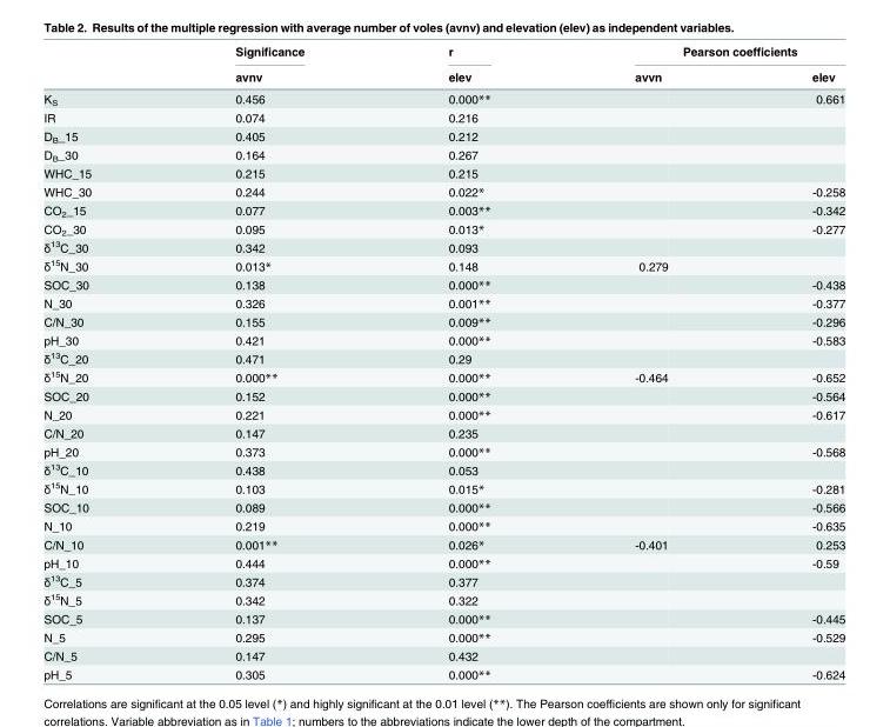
<table><thead><tr><td rowspan="2"></td><td rowspan="2">Significance avnv</td><td rowspan="2">r elev</td><td colspan="2">Pearson coefficients</td></tr><tr><td>avvn</td><td>elev</td></tr></thead><tbody><tr><td>K<sub>S</sub></td><td>0.456</td><td>0.000**</td><td></td><td>0.661</td></tr><tr><td>IR</td><td>0.074</td><td>0.216</td><td></td><td></td></tr><tr><td>DB_15</td><td>0.405</td><td>0.212</td><td></td><td></td></tr><tr><td>DB_30</td><td>0.164</td><td>0.267</td><td></td><td></td></tr><tr><td>WHC_15</td><td>0.215</td><td>0.215</td><td></td><td></td></tr><tr><td>WHC_30</td><td>0.244</td><td>0.022*</td><td></td><td>-0.258</td></tr><tr><td>CO2_15</td><td>0.077</td><td>0.003**</td><td></td><td>-0.342</td></tr><tr><td>CO2_30</td><td>0.095</td><td>0.013*</td><td></td><td>-0.277</td></tr><tr><td>δ<sup>13</sup>C_30</td><td>0.342</td><td>0.093</td><td></td><td></td></tr><tr><td>δ<sup>15</sup>N_30</td><td>0.013*</td><td>0.148</td><td>0.279</td><td></td></tr><tr><td>SOC_30</td><td>0.138</td><td>0.000**</td><td></td><td>-0.438</td></tr><tr><td>N_30</td><td>0.326</td><td>0.001**</td><td></td><td>-0.377</td></tr><tr><td>C/N_30</td><td>0.155</td><td>0.009**</td><td></td><td>-0.296</td></tr><tr><td>pH_30</td><td>0.421</td><td>0.000**</td><td></td><td>-0.583</td></tr><tr><td>δ<sup>13</sup>C_20</td><td>0.471</td><td>0.29</td><td></td><td></td></tr><tr><td>δ<sup>15</sup>N_20</td><td>0.000**</td><td>0.000**</td><td>-0.464</td><td>-0.652</td></tr><tr><td>SOC_20</td><td>0.152</td><td>0.000**</td><td></td><td>-0.564</td></tr><tr><td>N_20</td><td>0.221</td><td>0.000**</td><td></td><td>-0.617</td></tr><tr><td>C/N_20</td><td>0.147</td><td>0.235</td><td></td><td></td></tr><tr><td>pH_20</td><td>0.373</td><td>0.000**</td><td></td><td>-0.568</td></tr><tr><td>δ<sup>13</sup>C_10</td><td>0.438</td><td>0.053</td><td></td><td></td></tr><tr><td>δ<sup>15</sup>N_10</td><td>0.103</td><td>0.015*</td><td></td><td>-0.281</td></tr><tr><td>SOC_10</td><td>0.089</td><td>0.000**</td><td></td><td>-0.566</td></tr><tr><td>N_10</td><td>0.219</td><td>0.000**</td><td></td><td>-0.635</td></tr><tr><td>C/N_10</td><td>0.001**</td><td>0.026*</td><td>-0.401</td><td>0.253</td></tr><tr><td>pH_10</td><td>0.444</td><td>0.000**</td><td></td><td>-0.59</td></tr><tr><td>δ<sup>13</sup>C_5</td><td>0.374</td><td>0.377</td><td></td><td></td></tr><tr><td>δ<sup>15</sup>N_5</td><td>0.342</td><td>0.322</td><td></td><td></td></tr><tr><td>SOC_5</td><td>0.137</td><td>0.000**</td><td></td><td>-0.445</td></tr><tr><td>N_5</td><td>0.295</td><td>0.000**</td><td></td><td>-0.529</td></tr><tr><td>C/N_5</td><td>0.147</td><td>0.432</td><td></td><td></td></tr><tr><td>pH_5</td><td>0.305</td><td>0.000**</td><td></td><td>-0.624</td></tr></tbody></table>